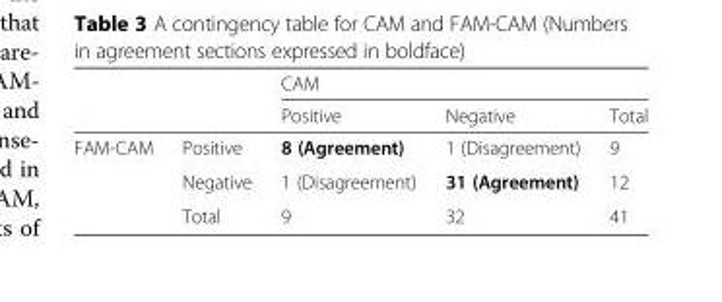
<table><thead><tr><td rowspan="2"></td><td rowspan="2"></td><td colspan="3">CAM</td></tr><tr><td>Positive</td><td>Negative</td><td>Total</td></tr></thead><tbody><tr><td rowspan="3">FAM-CAM</td><td>Positive</td><td>8 (Agreement)</td><td>1 (Disagreement)</td><td>9</td></tr><tr><td>Negative</td><td>1 (Disagreement)</td><td>31 (Agreement)</td><td>12</td></tr><tr><td>Total</td><td>9</td><td>32</td><td>41</td></tr></tbody></table>